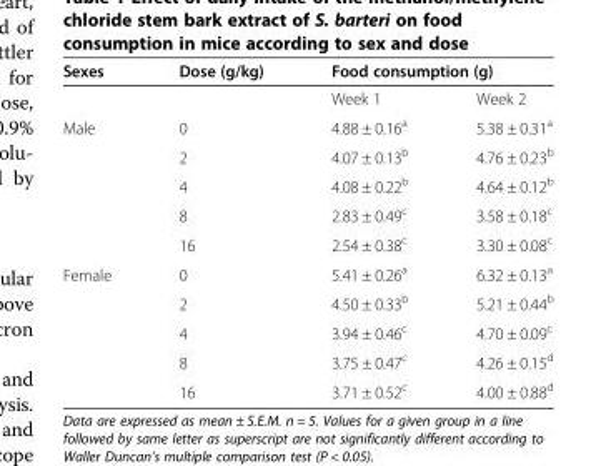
<table><thead><tr><td rowspan="2">Sexes</td><td rowspan="2">Dose (g/kg)</td><td colspan="2">Food consumption (g)</td></tr><tr><td>Week 1</td><td>Week 2</td></tr></thead><tbody><tr><td rowspan="5">Male</td><td>0</td><td>4.88 ± 0.16<sup>a</sup></td><td>5.38 ± 0.31<sup>a</sup></td></tr><tr><td>2</td><td>4.07 ± 0.13<sup>b</sup></td><td>4.76 ± 0.23<sup>b</sup></td></tr><tr><td>4</td><td>4.08 ± 0.22<sup>b</sup></td><td>4.64 ± 0.12<sup>b</sup></td></tr><tr><td>8</td><td>2.83 ± 0.49<sup>c</sup></td><td>3.58 ± 0.18<sup>c</sup></td></tr><tr><td>16</td><td>2.54 ± 0.38<sup>c</sup></td><td>3.30 ± 0.08<sup>c</sup></td></tr><tr><td rowspan="5">Female</td><td>0</td><td>5.41 ± 0.26<sup>a</sup></td><td>6.32 ± 0.13<sup>a</sup></td></tr><tr><td>2</td><td>4.50 ± 0.33<sup>b</sup></td><td>5.21 ± 0.44<sup>b</sup></td></tr><tr><td>4</td><td>3.94 ± 0.46<sup>c</sup></td><td>4.70 ± 0.09<sup>c</sup></td></tr><tr><td>8</td><td>3.75 ± 0.47<sup>c</sup></td><td>4.26 ± 0.15<sup>d</sup></td></tr><tr><td>16</td><td>3.71 ± 0.52<sup>c</sup></td><td>4.00 ± 0.88<sup>d</sup></td></tr></tbody></table>